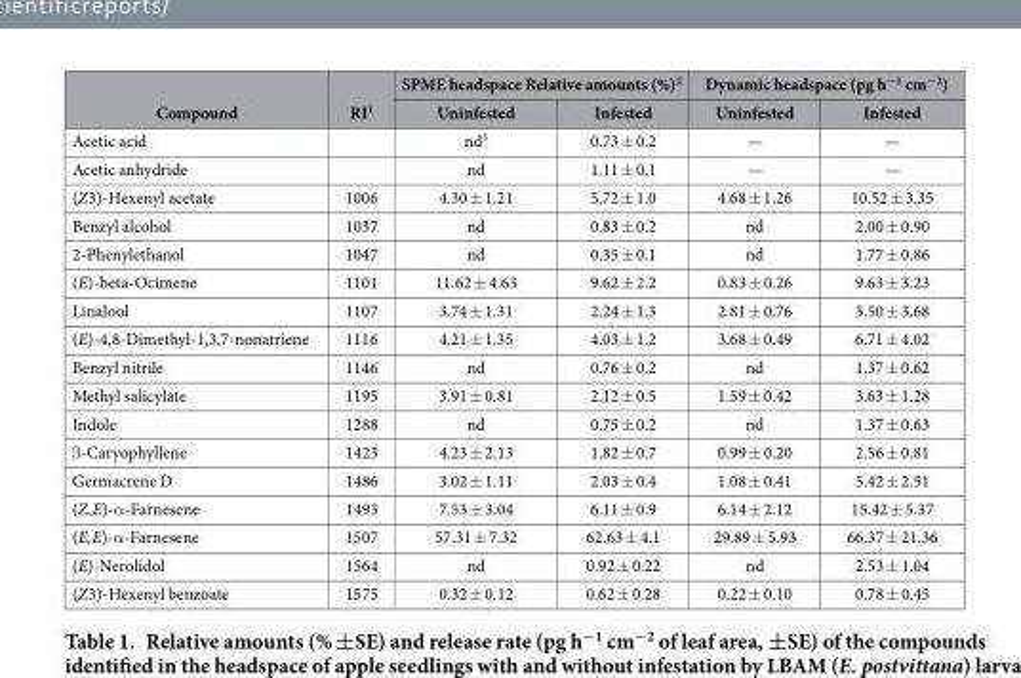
<table><thead><tr><td rowspan="2">Compound</td><td rowspan="2">RI<sup>1</sup></td><td colspan="2">SPME headspace Relative amounts (%)<sup>2</sup></td><td colspan="2">Dynamic headspace (pg h<sup>−1</sup> cm<sup>−2</sup>)</td></tr><tr><td>Uninfested</td><td>Infested</td><td>Uninfested</td><td>Infested</td></tr></thead><tbody><tr><td>Acetic acid</td><td></td><td>nd<sup>3</sup></td><td>0.73 ± 0.2</td><td>—</td><td>—</td></tr><tr><td>Acetic anhydride</td><td></td><td>nd</td><td>1.11 ± 0.1</td><td>—</td><td>—</td></tr><tr><td>(Z3)-Hexenyl acetate</td><td>1006</td><td>4.30 ± 1.21</td><td>5.72 ± 1.0</td><td>4.68 ± 1.26</td><td>10.52 ± 3.35</td></tr><tr><td>Benzyl alcohol</td><td>1037</td><td>nd</td><td>0.83 ± 0.2</td><td>nd</td><td>2.00 ± 0.90</td></tr><tr><td>2-Phenylethanol</td><td>1047</td><td>nd</td><td>0.35 ± 0.1</td><td>nd</td><td>1.77 ± 0.86</td></tr><tr><td>(E)-beta-Ocimene</td><td>1101</td><td>11.62 ± 4.63</td><td>9.62 ± 2.2</td><td>0.83 ± 0.26</td><td>9.63 ± 3.23</td></tr><tr><td>Linalool</td><td>1107</td><td>3.74 ± 1.31</td><td>2.24 ± 1.3</td><td>2.81 ± 0.76</td><td>5.50 ± 3.68</td></tr><tr><td>(E)-4,8-Dimethyl-1,3,7-nonatriene</td><td>1116</td><td>4.21 ± 1.35</td><td>4.03 ± 1.2</td><td>3.68 ± 0.49</td><td>6.71 ± 4.02</td></tr><tr><td>Benzyl nitrile</td><td>1146</td><td>nd</td><td>0.76 ± 0.2</td><td>nd</td><td>1.37 ± 0.62</td></tr><tr><td>Methyl salicylate</td><td>1195</td><td>3.91 ± 0.81</td><td>2.12 ± 0.5</td><td>1.59 ± 0.42</td><td>3.63 ± 1.28</td></tr><tr><td>Indole</td><td>1288</td><td>nd</td><td>0.75 ± 0.2</td><td>nd</td><td>1.37 ± 0.63</td></tr><tr><td>β -Caryophyllene</td><td>1423</td><td>4.23 ± 2.13</td><td>1.82 ± 0.7</td><td>0.99 ± 0.20</td><td>2.56 ± 0.81</td></tr><tr><td>Germacrene D</td><td>1486</td><td>3.02 ± 1.11</td><td>2.03 ± 0.4</td><td>1.08 ± 0.41</td><td>5.42 ± 2.51</td></tr><tr><td>(Z,E)-α -Farnesene</td><td>1493</td><td>7.53 ± 3.04</td><td>6.11 ± 0.9</td><td>6.14 ± 2.12</td><td>15.42 ± 5.37</td></tr><tr><td>(E,E)-α -Farnesene</td><td>1507</td><td>57.31 ± 7.32</td><td>62.63 ± 4.1</td><td>29.89 ± 5.93</td><td>66.37 ± 21.36</td></tr><tr><td>(E)-Nerolidol</td><td>1564</td><td>nd</td><td>0.92 ± 0.22</td><td>nd</td><td>2.53 ± 1.04</td></tr><tr><td>(Z3)-Hexenyl benzoate</td><td>1575</td><td>0.32 ± 0.12</td><td>0.62 ± 0.28</td><td>0.22 ± 0.10</td><td>0.78 ± 0.45</td></tr></tbody></table>